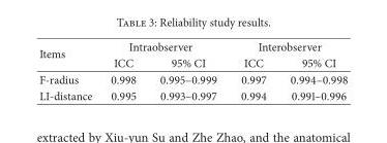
<table><thead><tr><td rowspan="2">Items</td><td colspan="2">Intraobserver</td><td colspan="2">Interobserver</td></tr><tr><td>ICC</td><td>95% CI</td><td>ICC</td><td>95% CI</td></tr></thead><tbody><tr><td>F-radius</td><td>0.998</td><td>0.995–0.999</td><td>0.997</td><td>0.994–0.998</td></tr><tr><td>LI-distance</td><td>0.995</td><td>0.993–0.997</td><td>0.994</td><td>0.991–0.996</td></tr></tbody></table>